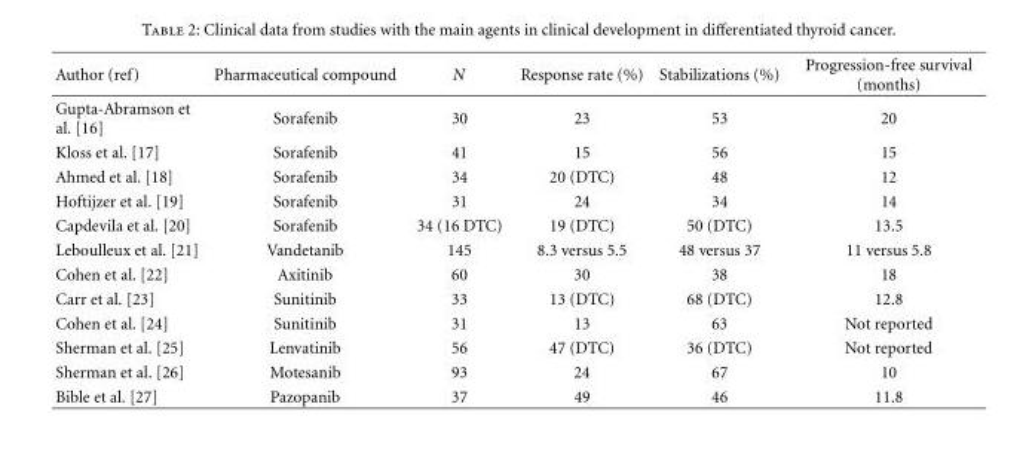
<table><thead><tr><td>Author (ref)</td><td>Pharmaceutical compound</td><td>N</td><td>Response rate (%)</td><td>Stabilizations (%)</td><td>Progression-free survival (months)</td></tr></thead><tbody><tr><td>Gupta-Abramson et al. [16]</td><td>Sorafenib</td><td>30</td><td>23</td><td>53</td><td>20</td></tr><tr><td>Kloss et al. [17]</td><td>Sorafenib</td><td>41</td><td>15</td><td>56</td><td>15</td></tr><tr><td>Ahmed et al. [18]</td><td>Sorafenib</td><td>34</td><td>20 (DTC)</td><td>48</td><td>12</td></tr><tr><td>Hoftijzer et al. [19]</td><td>Sorafenib</td><td>31</td><td>24</td><td>34</td><td>14</td></tr><tr><td>Capdevila et al. [20]</td><td>Sorafenib</td><td>34 (16 DTC)</td><td>19 (DTC)</td><td>50 (DTC)</td><td>13.5</td></tr><tr><td>Leboulleux et al. [21]</td><td>Vandetanib</td><td>145</td><td>8.3 versus 5.5</td><td>48 versus 37</td><td>11 versus 5.8</td></tr><tr><td>Cohen et al. [22]</td><td>Axitinib</td><td>60</td><td>30</td><td>38</td><td>18</td></tr><tr><td>Carr et al. [23]</td><td>Sunitinib</td><td>33</td><td>13 (DTC)</td><td>68 (DTC)</td><td>12.8</td></tr><tr><td>Cohen et al. [24]</td><td>Sunitinib</td><td>31</td><td>13</td><td>63</td><td>Not reported</td></tr><tr><td>Sherman et al. [25]</td><td>Lenvatinib</td><td>56</td><td>47 (DTC)</td><td>36 (DTC)</td><td>Not reported</td></tr><tr><td>Sherman et al. [26]</td><td>Motesanib</td><td>93</td><td>24</td><td>67</td><td>10</td></tr><tr><td>Bible et al. [27]</td><td>Pazopanib</td><td>37</td><td>49</td><td>46</td><td>11.8</td></tr></tbody></table>